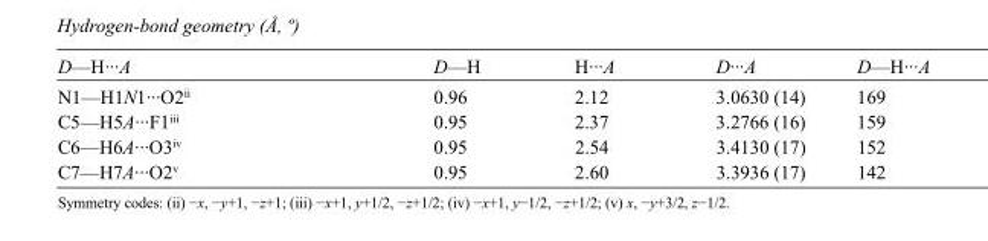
<table><tbody><tr><td>D—H···A</td><td>D—H</td><td>H···A</td><td>D···A</td><td>D—H···A</td></tr><tr><td>N1—H1N1···O2<sup>ii</sup></td><td>0.96</td><td>2.12</td><td>3.0630 (14)</td><td>169</td></tr><tr><td>C5—H5A···F1<sup>iii</sup></td><td>0.95</td><td>2.37</td><td>3.2766 (16)</td><td>159</td></tr><tr><td>C6—H6A···O3<sup>iv</sup></td><td>0.95</td><td>2.54</td><td>3.4130 (17)</td><td>152</td></tr><tr><td>C7—H7A···O2<sup>v</sup></td><td>0.95</td><td>2.60</td><td>3.3936 (17)</td><td>142</td></tr></tbody></table>